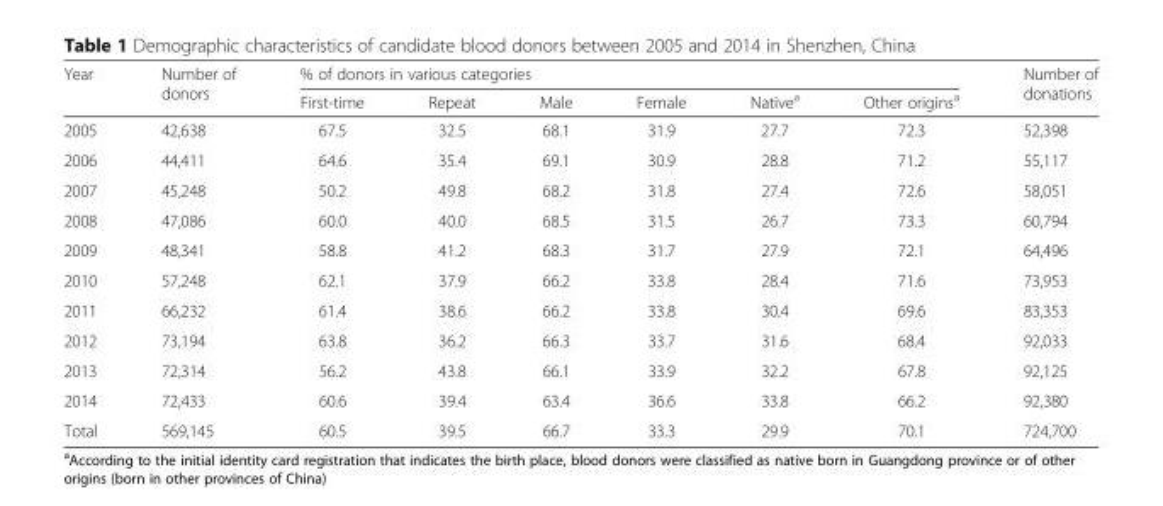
<table><thead><tr><td rowspan="2">Year</td><td rowspan="2">Number of donors</td><td colspan="6">% of donors in various categories</td><td rowspan="2">Number of donations</td></tr><tr><td>First-time</td><td>Repeat</td><td>Male</td><td>Female</td><td>Native<sup>a</sup></td><td>Other origins<sup>a</sup></td></tr></thead><tbody><tr><td>2005</td><td>42,638</td><td>67.5</td><td>32.5</td><td>68.1</td><td>31.9</td><td>27.7</td><td>72.3</td><td>52,398</td></tr><tr><td>2006</td><td>44,411</td><td>64.6</td><td>35.4</td><td>69.1</td><td>30.9</td><td>28.8</td><td>71.2</td><td>55,117</td></tr><tr><td>2007</td><td>45,248</td><td>50.2</td><td>49.8</td><td>68.2</td><td>31.8</td><td>27.4</td><td>72.6</td><td>58,051</td></tr><tr><td>2008</td><td>47,086</td><td>60.0</td><td>40.0</td><td>68.5</td><td>31.5</td><td>26.7</td><td>73.3</td><td>60,794</td></tr><tr><td>2009</td><td>48,341</td><td>58.8</td><td>41.2</td><td>68.3</td><td>31.7</td><td>27.9</td><td>72.1</td><td>64,496</td></tr><tr><td>2010</td><td>57,248</td><td>62.1</td><td>37.9</td><td>66.2</td><td>33.8</td><td>28.4</td><td>71.6</td><td>73,953</td></tr><tr><td>2011</td><td>66,232</td><td>61.4</td><td>38.6</td><td>66.2</td><td>33.8</td><td>30.4</td><td>69.6</td><td>83,353</td></tr><tr><td>2012</td><td>73,194</td><td>63.8</td><td>36.2</td><td>66.3</td><td>33.7</td><td>31.6</td><td>68.4</td><td>92,033</td></tr><tr><td>2013</td><td>72,314</td><td>56.2</td><td>43.8</td><td>66.1</td><td>33.9</td><td>32.2</td><td>67.8</td><td>92,125</td></tr><tr><td>2014</td><td>72,433</td><td>60.6</td><td>39.4</td><td>63.4</td><td>36.6</td><td>33.8</td><td>66.2</td><td>92,380</td></tr><tr><td>Total</td><td>569,145</td><td>60.5</td><td>39.5</td><td>66.7</td><td>33.3</td><td>29.9</td><td>70.1</td><td>724,700</td></tr></tbody></table>